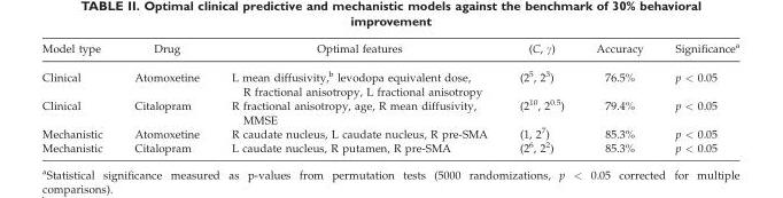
<table><thead><tr><td>Model type</td><td>Drug</td><td>Optimal features</td><td>(C, γ)</td><td>Accuracy</td><td>Significance<sup>a</sup></td></tr></thead><tbody><tr><td>Clinical</td><td>Atomoxetine</td><td>L mean diffusivity,<sup>b</sup> levodopa equivalent dose, R fractional anisotropy, L fractional anisotropy</td><td>(2<sup>5</sup>, 2<sup>3</sup>)</td><td>76.5%</td><td>p &lt; 0.05</td></tr><tr><td>Clinical</td><td>Citalopram</td><td>R fractional anisotropy, age, R mean diffusivity, MMSE</td><td>(2<sup>10</sup>, 2<sup>0.5</sup>)</td><td>79.4%</td><td>p &lt; 0.05</td></tr><tr><td>Mechanistic</td><td>Atomoxetine</td><td>R caudate nucleus, L caudate nucleus, R pre-SMA</td><td>(1, 2<sup>7</sup>)</td><td>85.3%</td><td>p &lt; 0.05</td></tr><tr><td>Mechanistic</td><td>Citalopram</td><td>L caudate nucleus, R putamen, R pre-SMA</td><td>(2<sup>6</sup>, 2<sup>2</sup>)</td><td>85.3%</td><td>p &lt; 0.05</td></tr></tbody></table>